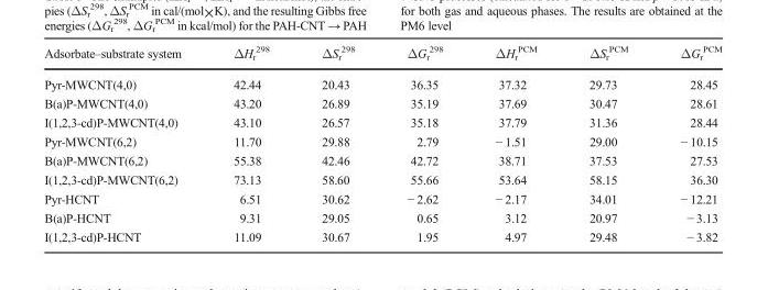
<table><thead><tr><td>Adsorbate–substrate system</td><td>ΔH<sub>r</sub> <sup>298</sup></td><td>ΔS<sub>r</sub> <sup>298</sup></td><td>ΔG<sub>r</sub> <sup>298</sup></td><td>ΔH<sub>r</sub> <sup>PCM</sup></td><td>ΔS<sub>r</sub> <sup>PCM</sup></td><td>ΔG<sub>r</sub> <sup>PCM</sup></td></tr></thead><tbody><tr><td>Pyr-MWCNT(4,0)</td><td>42.44</td><td>20.43</td><td>36.35</td><td>37.32</td><td>29.73</td><td>28.45</td></tr><tr><td>B(a)P-MWCNT(4,0)</td><td>43.20</td><td>26.89</td><td>35.19</td><td>37.69</td><td>30.47</td><td>28.61</td></tr><tr><td>I(1,2,3-cd)P-MWCNT(4,0)</td><td>43.10</td><td>26.57</td><td>35.18</td><td>37.79</td><td>31.36</td><td>28.44</td></tr><tr><td>Pyr-MWCNT(6,2)</td><td>11.70</td><td>29.88</td><td>2.79</td><td>− 1.51</td><td>29.00</td><td>− 10.15</td></tr><tr><td>B(a)P-MWCNT(6,2)</td><td>55.38</td><td>42.46</td><td>42.72</td><td>38.71</td><td>37.53</td><td>27.53</td></tr><tr><td>I(1,2,3-cd)P-MWCNT(6,2)</td><td>73.13</td><td>58.60</td><td>55.66</td><td>53.64</td><td>58.15</td><td>36.30</td></tr><tr><td>Pyr-HCNT</td><td>6.51</td><td>30.62</td><td>− 2.62</td><td>− 2.17</td><td>34.01</td><td>− 12.21</td></tr><tr><td>B(a)P-HCNT</td><td>9.31</td><td>29.05</td><td>0.65</td><td>3.12</td><td>20.97</td><td>− 3.13</td></tr><tr><td>I(1,2,3-cd)P-HCNT</td><td>11.09</td><td>30.67</td><td>1.95</td><td>4.97</td><td>29.48</td><td>− 3.82</td></tr></tbody></table>